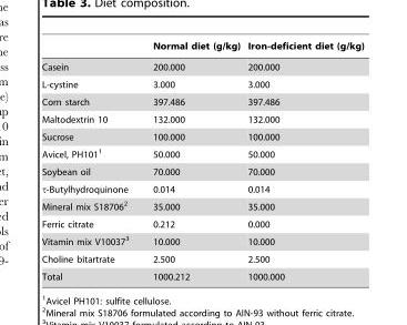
<table><thead><tr><td></td><td>Normal diet (g/kg)</td><td>Iron-deficient diet (g/kg)</td></tr></thead><tbody><tr><td>Casein</td><td>200.000</td><td>200.000</td></tr><tr><td>L-cystine</td><td>3.000</td><td>3.000</td></tr><tr><td>Corn starch</td><td>397.486</td><td>397.486</td></tr><tr><td>Maltodextrin 10</td><td>132.000</td><td>132.000</td></tr><tr><td>Sucrose</td><td>100.000</td><td>100.000</td></tr><tr><td>Avicel, PH101<sup>1</sup></td><td>50.000</td><td>50.000</td></tr><tr><td>Soybean oil</td><td>70.000</td><td>70.000</td></tr><tr><td>τ-Butylhydroquinone</td><td>0.014</td><td>0.014</td></tr><tr><td>Mineral mix S18706<sup>2</sup></td><td>35.000</td><td>35.000</td></tr><tr><td>Ferric citrate</td><td>0.212</td><td>0.000</td></tr><tr><td>Vitamin mix V10037<sup>3</sup></td><td>10.000</td><td>10.000</td></tr><tr><td>Choline bitartrate</td><td>2.500</td><td>2.500</td></tr><tr><td>Total</td><td>1000.212</td><td>1000.000</td></tr></tbody></table>